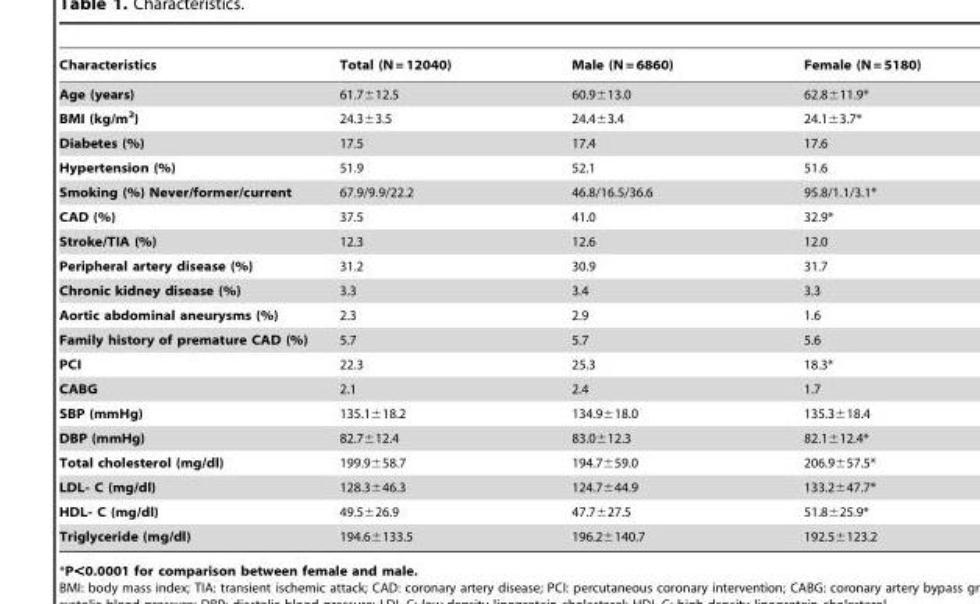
<table><thead><tr><td>Characteristics</td><td>Total (N = 12040)</td><td>Male (N = 6860)</td><td>Female (N = 5180)</td></tr></thead><tbody><tr><td>Age (years)</td><td>61.7±12.5</td><td>60.9±13.0</td><td>62.8±11.9*</td></tr><tr><td>BMI (kg/m<sup>2</sup>)</td><td>24.3±3.5</td><td>24.4±3.4</td><td>24.1±3.7*</td></tr><tr><td>Diabetes (%)</td><td>17.5</td><td>17.4</td><td>17.6</td></tr><tr><td>Hypertension (%)</td><td>51.9</td><td>52.1</td><td>51.6</td></tr><tr><td>Smoking (%) Never/former/current</td><td>67.9/9.9/22.2</td><td>46.8/16.5/36.6</td><td>95.8/1.1/3.1*</td></tr><tr><td>CAD (%)</td><td>37.5</td><td>41.0</td><td>32.9*</td></tr><tr><td>Stroke/TIA (%)</td><td>12.3</td><td>12.6</td><td>12.0</td></tr><tr><td>Peripheral artery disease (%)</td><td>31.2</td><td>30.9</td><td>31.7</td></tr><tr><td>Chronic kidney disease (%)</td><td>3.3</td><td>3.4</td><td>3.3</td></tr><tr><td>Aortic abdominal aneurysms (%)</td><td>2.3</td><td>2.9</td><td>1.6</td></tr><tr><td>Family history of premature CAD (%)</td><td>5.7</td><td>5.7</td><td>5.6</td></tr><tr><td>PCI</td><td>22.3</td><td>25.3</td><td>18.3*</td></tr><tr><td>CABG</td><td>2.1</td><td>2.4</td><td>1.7</td></tr><tr><td>SBP (mmHg)</td><td>135.1±18.2</td><td>134.9±18.0</td><td>135.3±18.4</td></tr><tr><td>DBP (mmHg)</td><td>82.7±12.4</td><td>83.0±12.3</td><td>82.1±12.4*</td></tr><tr><td>Total cholesterol (mg/dl)</td><td>199.9±58.7</td><td>194.7±59.0</td><td>206.9±57.5*</td></tr><tr><td>LDL- C (mg/dl)</td><td>128.3±46.3</td><td>124.7±44.9</td><td>133.2±47.7*</td></tr><tr><td>HDL- C (mg/dl)</td><td>49.5±26.9</td><td>47.7±27.5</td><td>51.8±25.9*</td></tr><tr><td>Triglyceride (mg/dl)</td><td>194.6±133.5</td><td>196.2±140.7</td><td>192.5±123.2</td></tr></tbody></table>